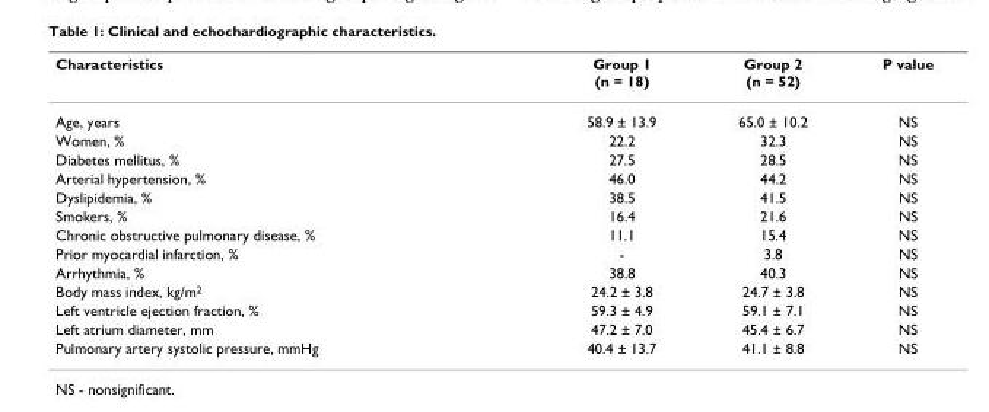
<table><thead><tr><td>Characteristics</td><td>Group 1 (n = 18)</td><td>Group 2 (n = 52)</td><td>P value</td></tr></thead><tbody><tr><td>Age, years</td><td>58.9 ± 13.9</td><td>65.0 ± 10.2</td><td>NS</td></tr><tr><td>Women, %</td><td>22.2</td><td>32.3</td><td>NS</td></tr><tr><td>Diabetes mellitus, %</td><td>27.5</td><td>28.5</td><td>NS</td></tr><tr><td>Arterial hypertension, %</td><td>46.0</td><td>44.2</td><td>NS</td></tr><tr><td>Dyslipidemia, %</td><td>38.5</td><td>41.5</td><td>NS</td></tr><tr><td>Smokers, %</td><td>16.4</td><td>21.6</td><td>NS</td></tr><tr><td>Chronic obstructive pulmonary disease, %</td><td>11.1</td><td>15.4</td><td>NS</td></tr><tr><td>Prior myocardial infarction, %</td><td>-</td><td>3.8</td><td>NS</td></tr><tr><td>Arrhythmia, %</td><td>38.8</td><td>40.3</td><td>NS</td></tr><tr><td>Body mass index, kg/m<sup>2</sup></td><td>24.2 ± 3.8</td><td>24.7 ± 3.8</td><td>NS</td></tr><tr><td>Left ventricle ejection fraction, %</td><td>59.3 ± 4.9</td><td>59.1 ± 7.1</td><td>NS</td></tr><tr><td>Left atrium diameter, mm</td><td>47.2 ± 7.0</td><td>45.4 ± 6.7</td><td>NS</td></tr><tr><td>Pulmonary artery systolic pressure, mmHg</td><td>40.4 ± 13.7</td><td>41.1 ± 8.8</td><td>NS</td></tr></tbody></table>